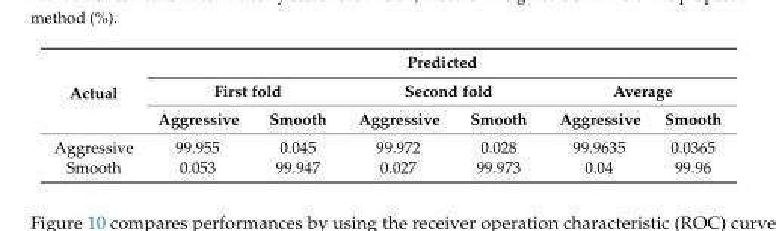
<table><thead><tr><td rowspan="3">Actual</td><td colspan="6">Predicted</td></tr><tr><td colspan="2">First fold</td><td colspan="2">Second fold</td><td colspan="2">Average</td></tr><tr><td>Aggressive</td><td>Smooth</td><td>Aggressive</td><td>Smooth</td><td>Aggressive</td><td>Smooth</td></tr></thead><tbody><tr><td>Aggressive</td><td>99.955</td><td>0.045</td><td>99.972</td><td>0.028</td><td>99.9635</td><td>0.0365</td></tr><tr><td>Smooth</td><td>0.053</td><td>99.947</td><td>0.027</td><td>99.973</td><td>0.04</td><td>99.96</td></tr></tbody></table>